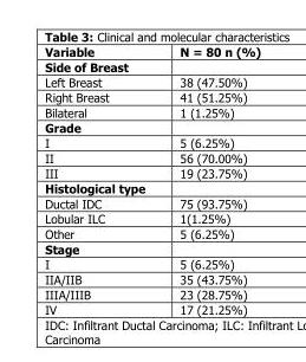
<table><thead><tr><td>Variable</td><td>N = 80 n (%)</td></tr></thead><tbody><tr><td colspan="2">Side of Breast</td></tr><tr><td>Left Breast</td><td>38 (47.50%)</td></tr><tr><td>Right Breast</td><td>41 (51.25%)</td></tr><tr><td>Bilateral</td><td>1 (1.25%)</td></tr><tr><td colspan="2">Grade</td></tr><tr><td>I</td><td>5 (6.25%)</td></tr><tr><td>II</td><td>56 (70.00%)</td></tr><tr><td>III</td><td>19 (23.75%)</td></tr><tr><td colspan="2">Histological type</td></tr><tr><td>Ductal IDC</td><td>75 (93.75%)</td></tr><tr><td>Lobular ILC</td><td>1(1.25%)</td></tr><tr><td>Other</td><td>5 (6.25%)</td></tr><tr><td colspan="2">Stage</td></tr><tr><td>I</td><td>5 (6.25%)</td></tr><tr><td>IIA/IIB</td><td>35 (43.75%)</td></tr><tr><td>IIIA/IIIB</td><td>23 (28.75%)</td></tr><tr><td>IV</td><td>17 (21.25%)</td></tr></tbody></table>